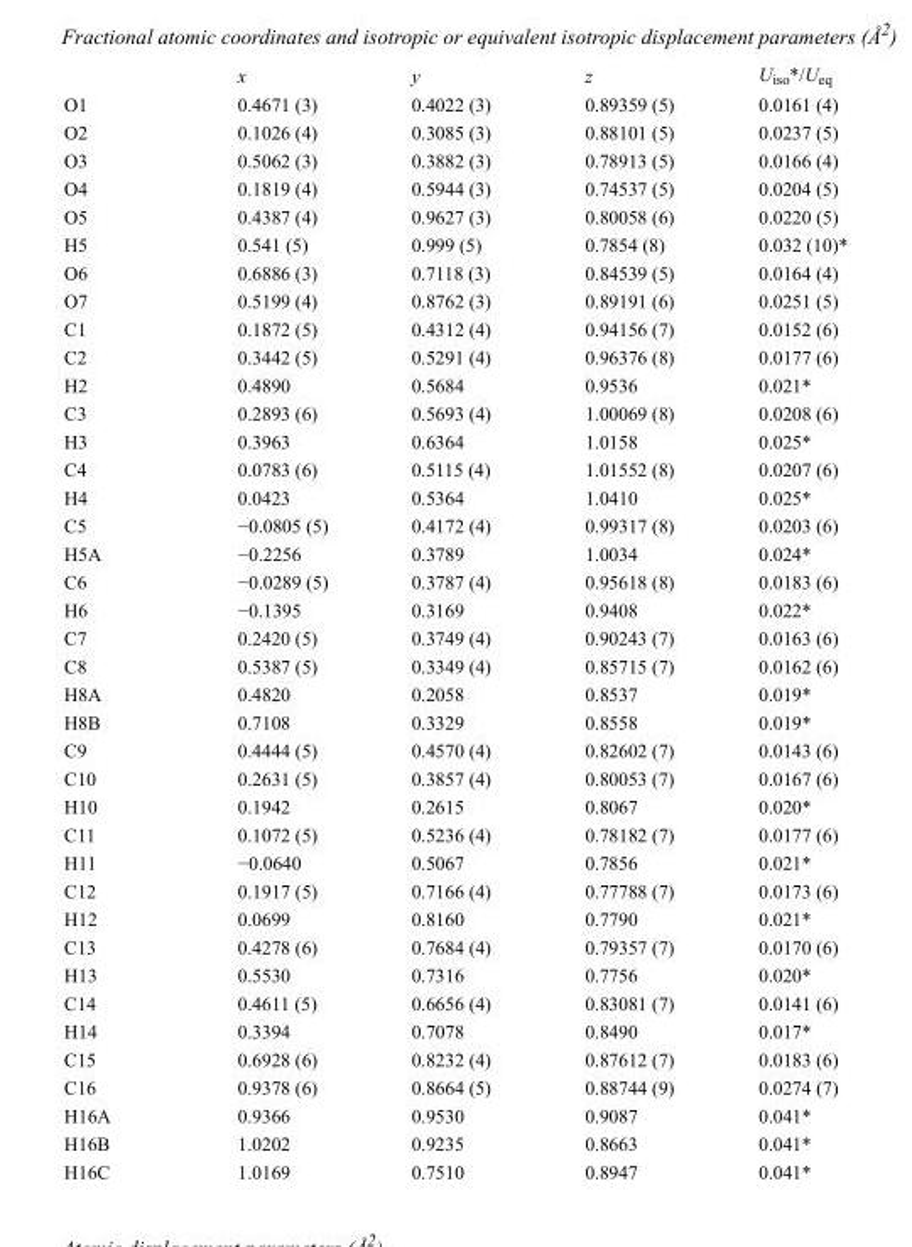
<table><thead><tr><td></td><td>x</td><td>y</td><td>z</td><td>U<sub>iso</sub>*/U<sub>eq</sub></td></tr></thead><tbody><tr><td>O1</td><td>0.4671 (3)</td><td>0.4022 (3)</td><td>0.89359 (5)</td><td>0.0161 (4)</td></tr><tr><td>O2</td><td>0.1026 (4)</td><td>0.3085 (3)</td><td>0.88101 (5)</td><td>0.0237 (5)</td></tr><tr><td>O3</td><td>0.5062 (3)</td><td>0.3882 (3)</td><td>0.78913 (5)</td><td>0.0166 (4)</td></tr><tr><td>O4</td><td>0.1819 (4)</td><td>0.5944 (3)</td><td>0.74537 (5)</td><td>0.0204 (5)</td></tr><tr><td>O5</td><td>0.4387 (4)</td><td>0.9627 (3)</td><td>0.80058 (6)</td><td>0.0220 (5)</td></tr><tr><td>H5</td><td>0.541 (5)</td><td>0.999 (5)</td><td>0.7854 (8)</td><td>0.032 (10)*</td></tr><tr><td>O6</td><td>0.6886 (3)</td><td>0.7118 (3)</td><td>0.84539 (5)</td><td>0.0164 (4)</td></tr><tr><td>O7</td><td>0.5199 (4)</td><td>0.8762 (3)</td><td>0.89191 (6)</td><td>0.0251 (5)</td></tr><tr><td>C1</td><td>0.1872 (5)</td><td>0.4312 (4)</td><td>0.94156 (7)</td><td>0.0152 (6)</td></tr><tr><td>C2</td><td>0.3442 (5)</td><td>0.5291 (4)</td><td>0.96376 (8)</td><td>0.0177 (6)</td></tr><tr><td>H2</td><td>0.4890</td><td>0.5684</td><td>0.9536</td><td>0.021*</td></tr><tr><td>C3</td><td>0.2893 (6)</td><td>0.5693 (4)</td><td>1.00069 (8)</td><td>0.0208 (6)</td></tr><tr><td>H3</td><td>0.3963</td><td>0.6364</td><td>1.0158</td><td>0.025*</td></tr><tr><td>C4</td><td>0.0783 (6)</td><td>0.5115 (4)</td><td>1.01552 (8)</td><td>0.0207 (6)</td></tr><tr><td>H4</td><td>0.0423</td><td>0.5364</td><td>1.0410</td><td>0.025*</td></tr><tr><td>C5</td><td>−0.0805 (5)</td><td>0.4172 (4)</td><td>0.99317 (8)</td><td>0.0203 (6)</td></tr><tr><td>H5A</td><td>−0.2256</td><td>0.3789</td><td>1.0034</td><td>0.024*</td></tr><tr><td>C6</td><td>−0.0289 (5)</td><td>0.3787 (4)</td><td>0.95618 (8)</td><td>0.0183 (6)</td></tr><tr><td>H6</td><td>−0.1395</td><td>0.3169</td><td>0.9408</td><td>0.022*</td></tr><tr><td>C7</td><td>0.2420 (5)</td><td>0.3749 (4)</td><td>0.90243 (7)</td><td>0.0163 (6)</td></tr><tr><td>C8</td><td>0.5387 (5)</td><td>0.3349 (4)</td><td>0.85715 (7)</td><td>0.0162 (6)</td></tr><tr><td>H8A</td><td>0.4820</td><td>0.2058</td><td>0.8537</td><td>0.019*</td></tr><tr><td>H8B</td><td>0.7108</td><td>0.3329</td><td>0.8558</td><td>0.019*</td></tr><tr><td>C9</td><td>0.4444 (5)</td><td>0.4570 (4)</td><td>0.82602 (7)</td><td>0.0143 (6)</td></tr><tr><td>C10</td><td>0.2631 (5)</td><td>0.3857 (4)</td><td>0.80053 (7)</td><td>0.0167 (6)</td></tr><tr><td>H10</td><td>0.1942</td><td>0.2615</td><td>0.8067</td><td>0.020*</td></tr><tr><td>C11</td><td>0.1072 (5)</td><td>0.5236 (4)</td><td>0.78182 (7)</td><td>0.0177 (6)</td></tr><tr><td>H11</td><td>−0.0640</td><td>0.5067</td><td>0.7856</td><td>0.021*</td></tr><tr><td>C12</td><td>0.1917 (5)</td><td>0.7166 (4)</td><td>0.77788 (7)</td><td>0.0173 (6)</td></tr><tr><td>H12</td><td>0.0699</td><td>0.8160</td><td>0.7790</td><td>0.021*</td></tr><tr><td>C13</td><td>0.4278 (6)</td><td>0.7684 (4)</td><td>0.79357 (7)</td><td>0.0170 (6)</td></tr><tr><td>H13</td><td>0.5530</td><td>0.7316</td><td>0.7756</td><td>0.020*</td></tr><tr><td>C14</td><td>0.4611 (5)</td><td>0.6656 (4)</td><td>0.83081 (7)</td><td>0.0141 (6)</td></tr><tr><td>H14</td><td>0.3394</td><td>0.7078</td><td>0.8490</td><td>0.017*</td></tr><tr><td>C15</td><td>0.6928 (6)</td><td>0.8232 (4)</td><td>0.87612 (7)</td><td>0.0183 (6)</td></tr><tr><td>C16</td><td>0.9378 (6)</td><td>0.8664 (5)</td><td>0.88744 (9)</td><td>0.0274 (7)</td></tr><tr><td>H16A</td><td>0.9366</td><td>0.9530</td><td>0.9087</td><td>0.041*</td></tr><tr><td>H16B</td><td>1.0202</td><td>0.9235</td><td>0.8663</td><td>0.041*</td></tr><tr><td>H16C</td><td>1.0169</td><td>0.7510</td><td>0.8947</td><td>0.041*</td></tr></tbody></table>